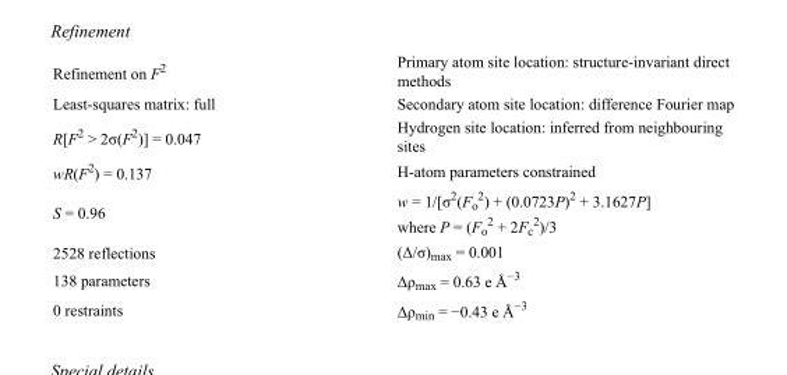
<table><tbody><tr><td>Refinement on F<sup>2</sup></td><td>Primary atom site location: structure-invariant direct methods</td></tr><tr><td>Least-squares matrix: full</td><td>Secondary atom site location: difference Fourier map</td></tr><tr><td>R[F<sup>2</sup> &gt; 2σ(F<sup>2</sup>)] = 0.047</td><td>Hydrogen site location: inferred from neighbouring sites</td></tr><tr><td>wR(F<sup>2</sup>) = 0.137</td><td>H-atom parameters constrained</td></tr><tr><td>S = 0.96</td><td>w = 1/[σ<sup>2</sup>(F<sub>o</sub> <sup>2</sup>) + (0.0723P)<sup>2</sup> + 3.1627P] where P = (F<sub>o</sub> <sup>2</sup> + 2F<sub>c</sub> <sup>2</sup>)/3</td></tr><tr><td>2528 reflections</td><td>(Δ/σ)<sub>max</sub> = 0.001</td></tr><tr><td>138 parameters</td><td>Δρ<sub>max</sub> = 0.63 e Å<sup>−3</sup></td></tr><tr><td>0 restraints</td><td>Δρ<sub>min</sub> = −0.43 e Å<sup>−3</sup></td></tr></tbody></table>